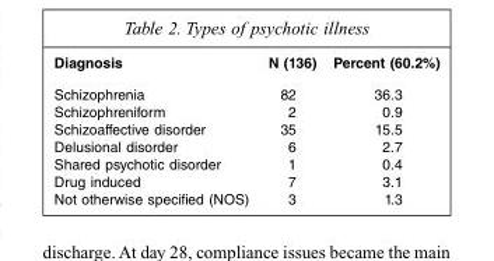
<table><thead><tr><td>Diagnosis</td><td>N (136)</td><td>Percent (60.2%)</td></tr></thead><tbody><tr><td>Schizophrenia</td><td>82</td><td>36.3</td></tr><tr><td>Schizophreniform</td><td>2</td><td>0.9</td></tr><tr><td>Schizoaffective disorder</td><td>35</td><td>15.5</td></tr><tr><td>Delusional disorder</td><td>6</td><td>2.7</td></tr><tr><td>Shared psychotic disorder</td><td>1</td><td>0.4</td></tr><tr><td>Drug induced</td><td>7</td><td>3.1</td></tr><tr><td>Not otherwise specifi ed (NOS)</td><td>3</td><td>1.3</td></tr></tbody></table>